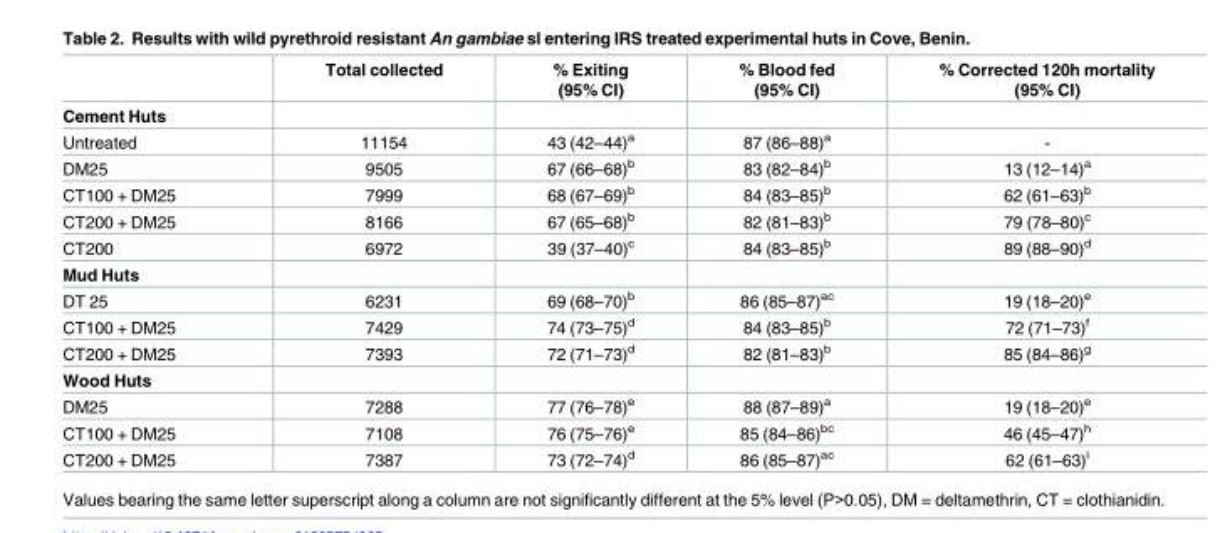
<table><thead><tr><td></td><td>Total collected</td><td>% Exiting (95% CI)</td><td>% Blood fed (95% CI)</td><td>% Corrected 120h mortality (95% CI)</td></tr></thead><tbody><tr><td colspan="5">Cement Huts</td></tr><tr><td>Untreated</td><td>11154</td><td>43 (42–44)<sup>a</sup></td><td>87 (86–88)<sup>a</sup></td><td>-</td></tr><tr><td>DM25</td><td>9505</td><td>67 (66–68)<sup>b</sup></td><td>83 (82–84)<sup>b</sup></td><td>13 (12–14)<sup>a</sup></td></tr><tr><td>CT100 + DM25</td><td>7999</td><td>68 (67–69)<sup>b</sup></td><td>84 (83–85)<sup>b</sup></td><td>62 (61–63)<sup>b</sup></td></tr><tr><td>CT200 + DM25</td><td>8166</td><td>67 (65–68)<sup>b</sup></td><td>82 (81–83)<sup>b</sup></td><td>79 (78–80)<sup>c</sup></td></tr><tr><td>CT200</td><td>6972</td><td>39 (37–40)<sup>c</sup></td><td>84 (83–85)<sup>b</sup></td><td>89 (88–90)<sup>d</sup></td></tr><tr><td colspan="5">Mud Huts</td></tr><tr><td>DT 25</td><td>6231</td><td>69 (68–70)<sup>b</sup></td><td>86 (85–87)<sup>ac</sup></td><td>19 (18–20)<sup>e</sup></td></tr><tr><td>CT100 + DM25</td><td>7429</td><td>74 (73–75)<sup>d</sup></td><td>84 (83–85)<sup>b</sup></td><td>72 (71–73)<sup>f</sup></td></tr><tr><td>CT200 + DM25</td><td>7393</td><td>72 (71–73)<sup>d</sup></td><td>82 (81–83)<sup>b</sup></td><td>85 (84–86)<sup>g</sup></td></tr><tr><td colspan="5">Wood Huts</td></tr><tr><td>DM25</td><td>7288</td><td>77 (76–78)<sup>e</sup></td><td>88 (87–89)<sup>a</sup></td><td>19 (18–20)<sup>e</sup></td></tr><tr><td>CT100 + DM25</td><td>7108</td><td>76 (75–76)<sup>e</sup></td><td>85 (84–86)<sup>bc</sup></td><td>46 (45–47)<sup>h</sup></td></tr><tr><td>CT200 + DM25</td><td>7387</td><td>73 (72–74)<sup>d</sup></td><td>86 (85–87)<sup>ac</sup></td><td>62 (61–63)<sup>i</sup></td></tr></tbody></table>